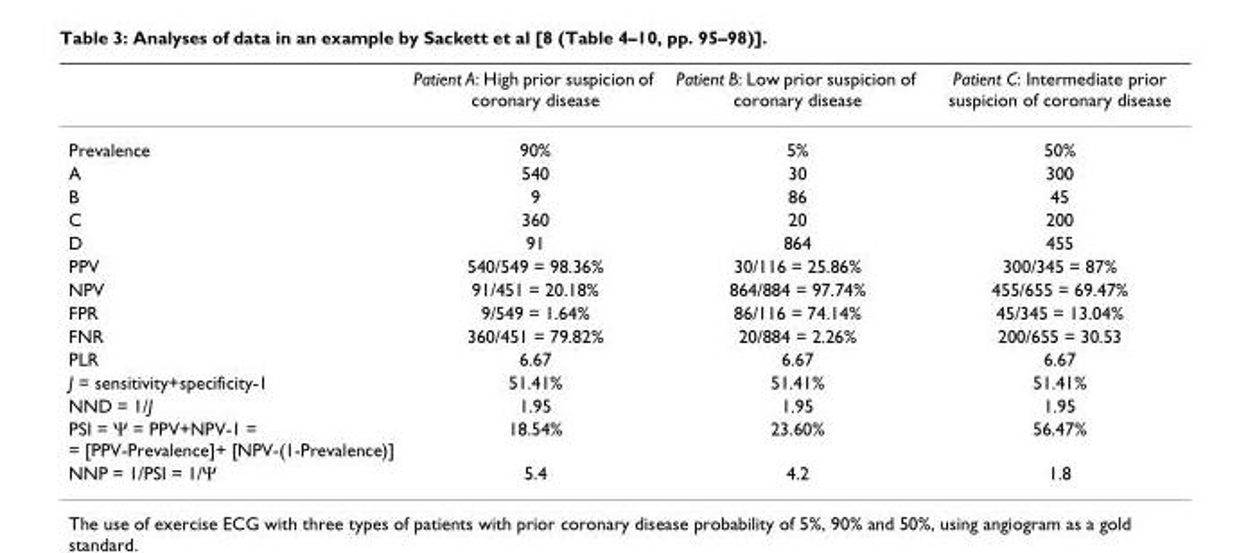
<table><thead><tr><td></td><td>Patient A: High prior suspicion of coronary disease</td><td>Patient B: Low prior suspicion of coronary disease</td><td>Patient C: Intermediate prior suspicion of coronary disease</td></tr></thead><tbody><tr><td>Prevalence</td><td>90%</td><td>5%</td><td>50%</td></tr><tr><td>A</td><td>540</td><td>30</td><td>300</td></tr><tr><td>B</td><td>9</td><td>86</td><td>45</td></tr><tr><td>C</td><td>360</td><td>20</td><td>200</td></tr><tr><td>D</td><td>91</td><td>864</td><td>455</td></tr><tr><td>PPV</td><td>540/549 = 98.36%</td><td>30/116 = 25.86%</td><td>300/345 = 87%</td></tr><tr><td>NPV</td><td>91/451 = 20.18%</td><td>864/884 = 97.74%</td><td>455/655 = 69.47%</td></tr><tr><td>FPR</td><td>9/549 = 1.64%</td><td>86/116 = 74.14%</td><td>45/345 = 13.04%</td></tr><tr><td>FNR</td><td>360/451 = 79.82%</td><td>20/884 = 2.26%</td><td>200/655 = 30.53</td></tr><tr><td>PLR</td><td>6.67</td><td>6.67</td><td>6.67</td></tr><tr><td>J = sensitivity+specificity-1</td><td>51.41%</td><td>51.41%</td><td>51.41%</td></tr><tr><td>NND = 1/J</td><td>1.95</td><td>1.95</td><td>1.95</td></tr><tr><td>PSI = Ψ = PPV+NPV-1 = = [PPV-Prevalence]+ [NPV-(1-Prevalence)]</td><td>18.54%</td><td>23.60%</td><td>56.47%</td></tr><tr><td>NNP = 1/PSI = 1/Ψ</td><td>5.4</td><td>4.2</td><td>1.8</td></tr></tbody></table>